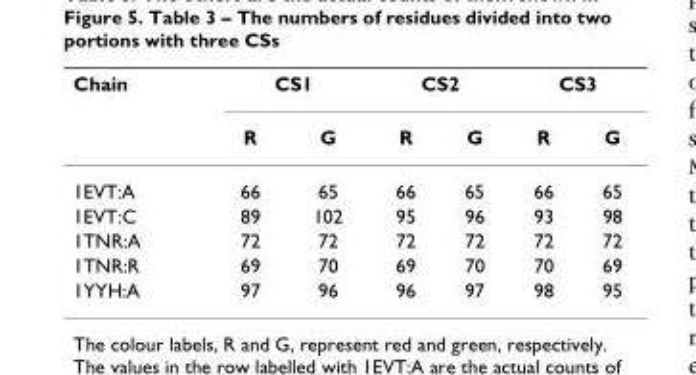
<table><thead><tr><td rowspan="2">Chain</td><td colspan="2">CS1</td><td colspan="2">CS2</td><td colspan="2">CS3</td></tr><tr><td>R</td><td>G</td><td>R</td><td>G</td><td>R</td><td>G</td></tr></thead><tbody><tr><td>1EVT:A</td><td>66</td><td>65</td><td>66</td><td>65</td><td>66</td><td>65</td></tr><tr><td>1EVT:C</td><td>89</td><td>102</td><td>95</td><td>96</td><td>93</td><td>98</td></tr><tr><td>1TNR:A</td><td>72</td><td>72</td><td>72</td><td>72</td><td>72</td><td>72</td></tr><tr><td>1TNR:R</td><td>69</td><td>70</td><td>69</td><td>70</td><td>70</td><td>69</td></tr><tr><td>1YYH:A</td><td>97</td><td>96</td><td>96</td><td>97</td><td>98</td><td>95</td></tr></tbody></table>